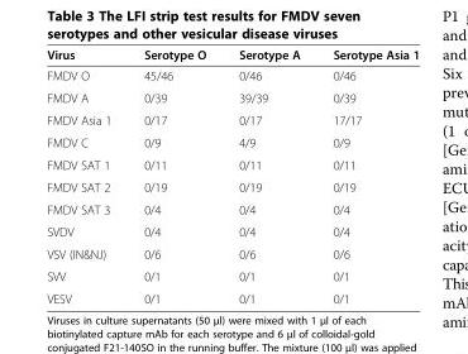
<table><thead><tr><td>Virus</td><td>Serotype O</td><td>Serotype A</td><td>Serotype Asia 1</td></tr></thead><tbody><tr><td>FMDV O</td><td>45/46</td><td>0/46</td><td>0/46</td></tr><tr><td>FMDV A</td><td>0/39</td><td>39/39</td><td>0/39</td></tr><tr><td>FMDV Asia 1</td><td>0/17</td><td>0/17</td><td>17/17</td></tr><tr><td>FMDV C</td><td>0/9</td><td>4/9</td><td>0/9</td></tr><tr><td>FMDV SAT 1</td><td>0/11</td><td>0/11</td><td>0/11</td></tr><tr><td>FMDV SAT 2</td><td>0/19</td><td>0/19</td><td>0/19</td></tr><tr><td>FMDV SAT 3</td><td>0/4</td><td>0/4</td><td>0/4</td></tr><tr><td>SVDV</td><td>0/4</td><td>0/4</td><td>0/4</td></tr><tr><td>VSV (IN&amp;NJ)</td><td>0/6</td><td>0/6</td><td>0/6</td></tr><tr><td>SVV</td><td>0/1</td><td>0/1</td><td>0/1</td></tr><tr><td>VESV</td><td>0/1</td><td>0/1</td><td>0/1</td></tr></tbody></table>